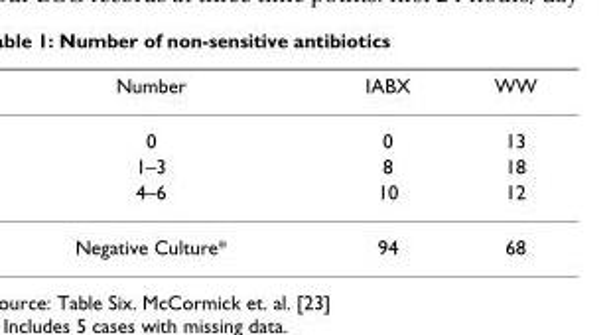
<table><thead><tr><td>Number</td><td>IABX</td><td>WW</td></tr></thead><tbody><tr><td>0</td><td>0</td><td>13</td></tr><tr><td>1–3</td><td>8</td><td>18</td></tr><tr><td>4–6</td><td>10</td><td>12</td></tr><tr><td>Negative Culture*</td><td>94</td><td>68</td></tr></tbody></table>